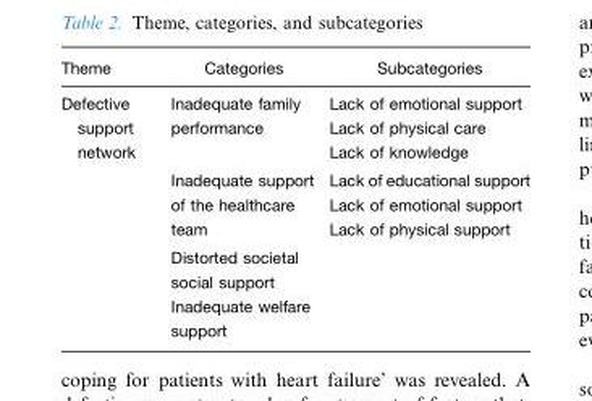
<table><thead><tr><td>Theme</td><td>Categories</td><td>Subcategories</td></tr></thead><tbody><tr><td rowspan="4">Defective support network</td><td>Inadequate family performance</td><td>Lack of emotional support Lack of physical care Lack of knowledge</td></tr><tr><td>Inadequate support of the healthcare team</td><td>Lack of educational support Lack of emotional support Lack of physical support</td></tr><tr><td>Distorted societal social support</td><td></td></tr><tr><td>Inadequate welfare support</td><td></td></tr></tbody></table>